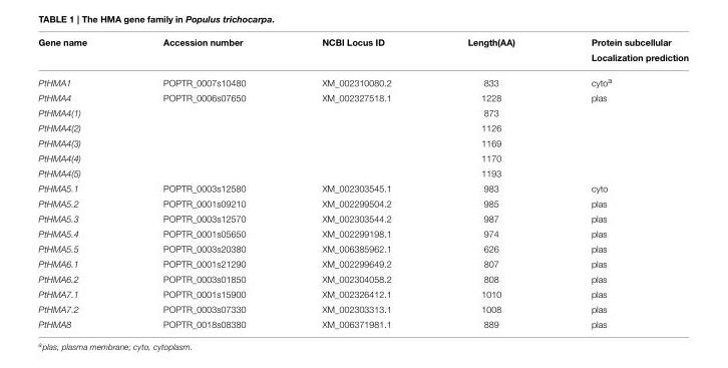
<table><thead><tr><td>Gene name</td><td>Accession number</td><td>NCBI Locus ID</td><td>Length(AA)</td><td>Protein subcellular Localization prediction</td></tr></thead><tbody><tr><td>PtHMA1</td><td>POPTR_0007s10480</td><td>XM_002310080.2</td><td>833</td><td>cyto<sup>a</sup></td></tr><tr><td>PtHMA4</td><td>POPTR_0006s07650</td><td>XM_002327518.1</td><td>1228</td><td>plas</td></tr><tr><td>PtHMA4(1)</td><td></td><td></td><td>873</td><td></td></tr><tr><td>PtHMA4(2)</td><td></td><td></td><td>1126</td><td></td></tr><tr><td>PtHMA4(3)</td><td></td><td></td><td>1169</td><td></td></tr><tr><td>PtHMA4(4)</td><td></td><td></td><td>1170</td><td></td></tr><tr><td>PtHMA4(5)</td><td></td><td></td><td>1193</td><td></td></tr><tr><td>PtHMA5.1</td><td>POPTR_0003s12580</td><td>XM_002303545.1</td><td>983</td><td>cyto</td></tr><tr><td>PtHMA5.2</td><td>POPTR_0001s09210</td><td>XM_002299504.2</td><td>985</td><td>plas</td></tr><tr><td>PtHMA5.3</td><td>POPTR_0003s12570</td><td>XM_002303544.2</td><td>987</td><td>plas</td></tr><tr><td>PtHMA5.4</td><td>POPTR_0001s05650</td><td>XM_002299198.1</td><td>974</td><td>plas</td></tr><tr><td>PtHMA5.5</td><td>POPTR_0003s20380</td><td>XM_006385962.1</td><td>626</td><td>plas</td></tr><tr><td>PtHMA6.1</td><td>POPTR_0001s21290</td><td>XM_002299649.2</td><td>807</td><td>plas</td></tr><tr><td>PtHMA6.2</td><td>POPTR_0003s01850</td><td>XM_002304058.2</td><td>808</td><td>plas</td></tr><tr><td>PtHMA7.1</td><td>POPTR_0001s15900</td><td>XM_002326412.1</td><td>1010</td><td>plas</td></tr><tr><td>PtHMA7.2</td><td>POPTR_0003s07330</td><td>XM_002303313.1</td><td>1008</td><td>plas</td></tr><tr><td>PtHMA8</td><td>POPTR_0018s08380</td><td>XM_006371981.1</td><td>889</td><td>plas</td></tr></tbody></table>